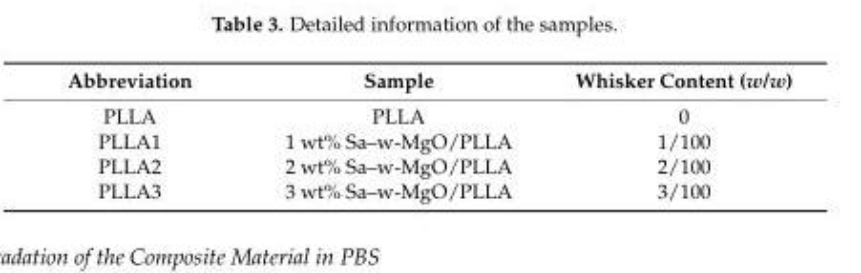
<table><thead><tr><td>Abbreviation</td><td>Sample</td><td>Whisker Content (w/w)</td></tr></thead><tbody><tr><td>PLLA</td><td>PLLA</td><td>0</td></tr><tr><td>PLLA1</td><td>1 wt% Sa–w-MgO/PLLA</td><td>1/100</td></tr><tr><td>PLLA2</td><td>2 wt% Sa–w-MgO/PLLA</td><td>2/100</td></tr><tr><td>PLLA3</td><td>3 wt% Sa–w-MgO/PLLA</td><td>3/100</td></tr></tbody></table>